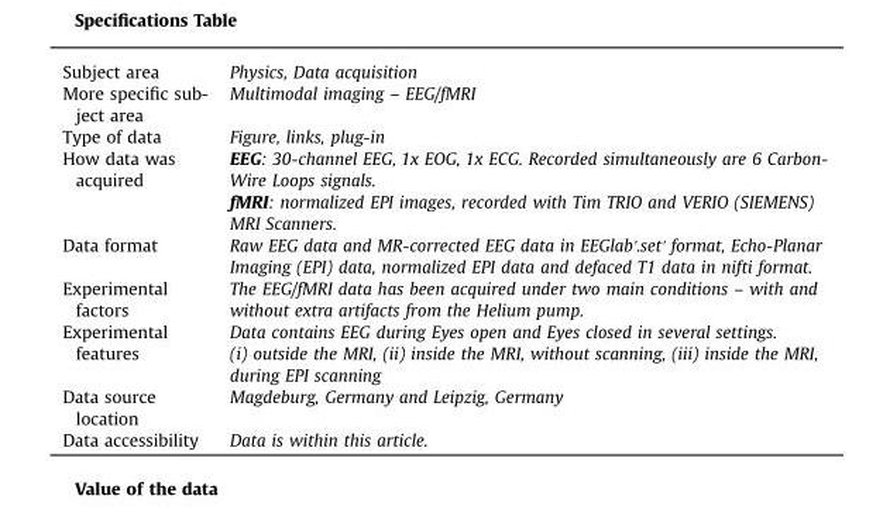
<table><tbody><tr><td>Subject area</td><td>Physics, Data acquisition</td></tr><tr><td>More specific sub- ject area</td><td>Multimodal imaging – EEG/fMRI</td></tr><tr><td>Type of data</td><td>Figure, links, plug-in</td></tr><tr><td rowspan="2">How data was acquired</td><td>EEG: 30-channel EEG, 1x EOG, 1x ECG. Recorded simultaneously are 6 Carbon- Wire Loops signals.</td></tr><tr><td>fMRI: normalized EPI images, recorded with Tim TRIO and VERIO (SIEMENS) MRI Scanners.</td></tr><tr><td>Data format</td><td>Raw EEG data and MR-corrected EEG data in EEGlab&#x27;.set&#x27; format, Echo-Planar Imaging (EPI) data, normalized EPI data and defaced T1 data in nifti format.</td></tr><tr><td>Experimental factors</td><td>The EEG/fMRI data has been acquired under two main conditions – with and without extra artifacts from the Helium pump.</td></tr><tr><td>Experimental features</td><td>Data contains EEG during Eyes open and Eyes closed in several settings. (i) outside the MRI, (ii) inside the MRI, without scanning, (iii) inside the MRI, during EPI scanning</td></tr><tr><td>Data source location</td><td>Magdeburg, Germany and Leipzig, Germany</td></tr><tr><td>Data accessibility</td><td>Data is within this article.</td></tr></tbody></table>